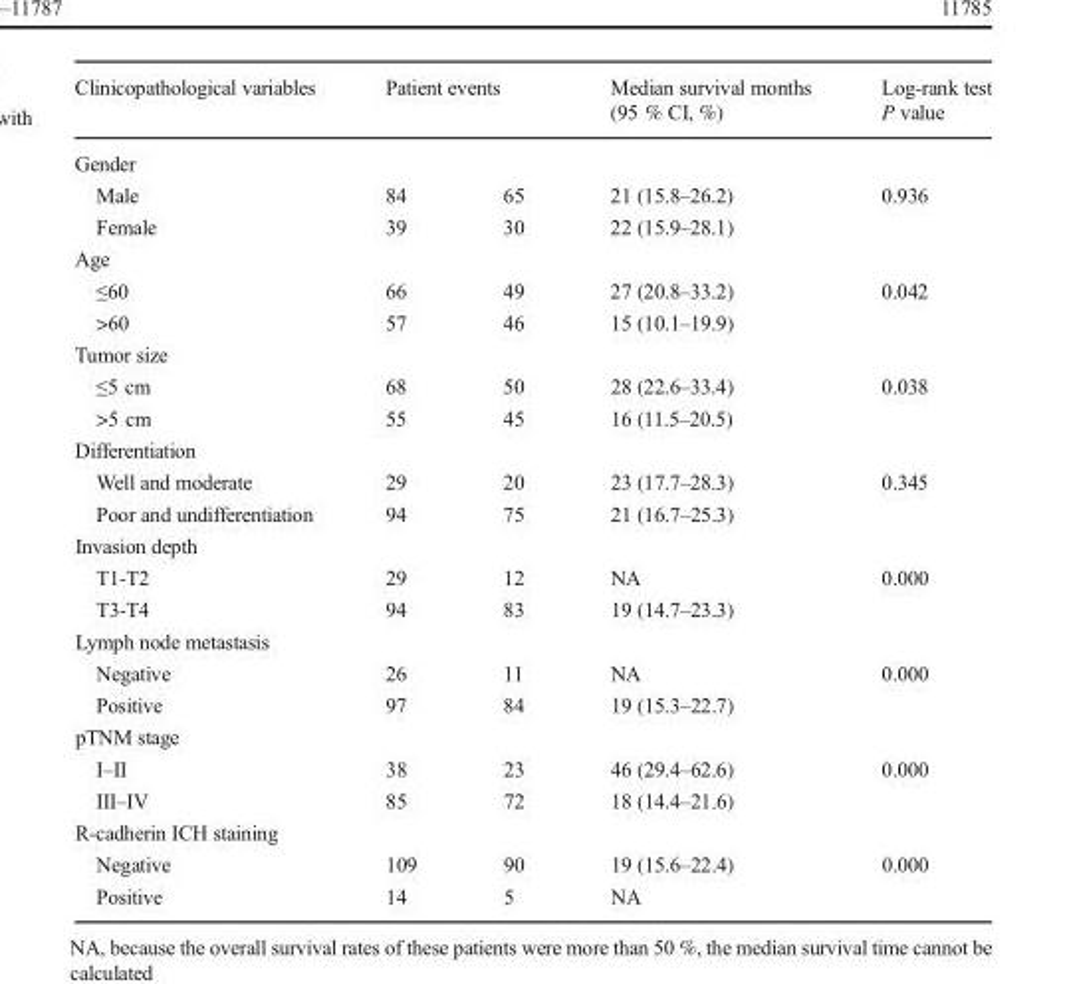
<table><thead><tr><td rowspan="3">Clinicopathological variables Gender</td><td rowspan="2" colspan="2">Patient events</td><td rowspan="3">Median survival months (95 % CI, %)</td><td rowspan="3">Log-rank test P value</td></tr><tr></tr><tr><td></td><td></td></tr></thead><tbody><tr><td>Male</td><td>84</td><td>65</td><td>21 (15.8–26.2)</td><td>0.936</td></tr><tr><td>Female</td><td>39</td><td>30</td><td>22 (15.9–28.1)</td><td></td></tr><tr><td colspan="5">Age</td></tr><tr><td>≤60</td><td>66</td><td>49</td><td>27 (20.8–33.2)</td><td>0.042</td></tr><tr><td>&gt;60</td><td>57</td><td>46</td><td>15 (10.1–19.9)</td><td></td></tr><tr><td colspan="5">Tumor size</td></tr><tr><td>≤5 cm</td><td>68</td><td>50</td><td>28 (22.6–33.4)</td><td>0.038</td></tr><tr><td>&gt;5 cm</td><td>55</td><td>45</td><td>16 (11.5–20.5)</td><td></td></tr><tr><td colspan="5">Differentiation</td></tr><tr><td>Well and moderate</td><td>29</td><td>20</td><td>23 (17.7–28.3)</td><td>0.345</td></tr><tr><td>Poor and undifferentiation</td><td>94</td><td>75</td><td>21 (16.7–25.3)</td><td></td></tr><tr><td colspan="5">Invasion depth</td></tr><tr><td>T1-T2</td><td>29</td><td>12</td><td>NA</td><td>0.000</td></tr><tr><td>T3-T4</td><td>94</td><td>83</td><td>19 (14.7–23.3)</td><td></td></tr><tr><td colspan="5">Lymph node metastasis</td></tr><tr><td>Negative</td><td>26</td><td>11</td><td>NA</td><td>0.000</td></tr><tr><td>Positive</td><td>97</td><td>84</td><td>19 (15.3–22.7)</td><td></td></tr><tr><td colspan="5">pTNM stage</td></tr><tr><td>I–II</td><td>38</td><td>23</td><td>46 (29.4–62.6)</td><td>0.000</td></tr><tr><td>III–IV</td><td>85</td><td>72</td><td>18 (14.4–21.6)</td><td></td></tr><tr><td colspan="5">R-cadherin ICH staining</td></tr><tr><td>Negative</td><td>109</td><td>90</td><td>19 (15.6–22.4)</td><td>0.000</td></tr><tr><td>Positive</td><td>14</td><td>5</td><td>NA</td><td></td></tr></tbody></table>